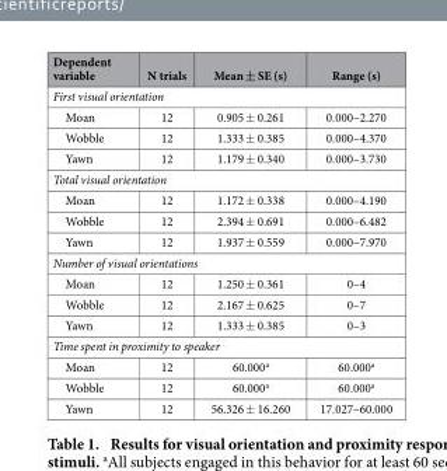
<table><thead><tr><td>Dependent variable</td><td>N trials</td><td>Mean ± SE (s)</td><td>Range (s)</td></tr></thead><tbody><tr><td colspan="4">First visual orientation</td></tr><tr><td>Moan</td><td>12</td><td>0.905 ± 0.261</td><td>0.000–2.270</td></tr><tr><td>Wobble</td><td>12</td><td>1.333 ± 0.385</td><td>0.000–4.370</td></tr><tr><td>Yawn</td><td>12</td><td>1.179 ± 0.340</td><td>0.000–3.730</td></tr><tr><td colspan="4">Total visual orientation</td></tr><tr><td>Moan</td><td>12</td><td>1.172 ± 0.338</td><td>0.000–4.190</td></tr><tr><td>Wobble</td><td>12</td><td>2.394 ± 0.691</td><td>0.000–6.482</td></tr><tr><td>Yawn</td><td>12</td><td>1.937 ± 0.559</td><td>0.000–7.970</td></tr><tr><td colspan="4">Number of visual orientations</td></tr><tr><td>Moan</td><td>12</td><td>1.250 ± 0.361</td><td>0–4</td></tr><tr><td>Wobble</td><td>12</td><td>2.167 ± 0.625</td><td>0–7</td></tr><tr><td>Yawn</td><td>12</td><td>1.333 ± 0.385</td><td>0–3</td></tr><tr><td colspan="4">Time spent in proximity to speaker</td></tr><tr><td>Moan</td><td>12</td><td>60.000<sup>a</sup></td><td>60.000<sup>a</sup></td></tr><tr><td>Wobble</td><td>12</td><td>60.000<sup>a</sup></td><td>60.000<sup>a</sup></td></tr><tr><td>Yawn</td><td>12</td><td>56.326 ± 16.260</td><td>17.027–60.000</td></tr></tbody></table>